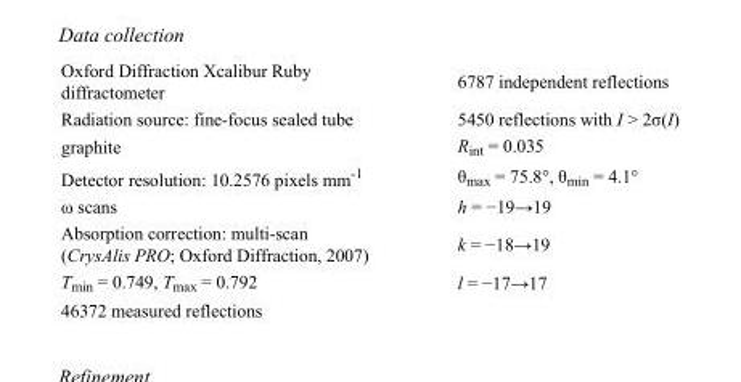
<table><tbody><tr><td>Oxford Diffraction Xcalibur Ruby diffractometer</td><td>6787 independent reflections</td></tr><tr><td>Radiation source: fine-focus sealed tube</td><td>5450 reflections with I &gt; 2σ(I)</td></tr><tr><td>graphite</td><td>R<sub>int</sub> = 0.035</td></tr><tr><td>Detector resolution: 10.2576 pixels mm<sup>-1</sup></td><td>θ<sub>max</sub> = 75.8°, θ<sub>min</sub> = 4.1°</td></tr><tr><td>ω scans</td><td>h = −19→19</td></tr><tr><td>Absorption correction: multi-scan (CrysAlis PRO; Oxford Diffraction, 2007)</td><td>k = −18→19</td></tr><tr><td>T<sub>min</sub> = 0.749, T<sub>max</sub> = 0.792</td><td>l = −17→17</td></tr><tr><td>46372 measured reflections</td><td></td></tr></tbody></table>